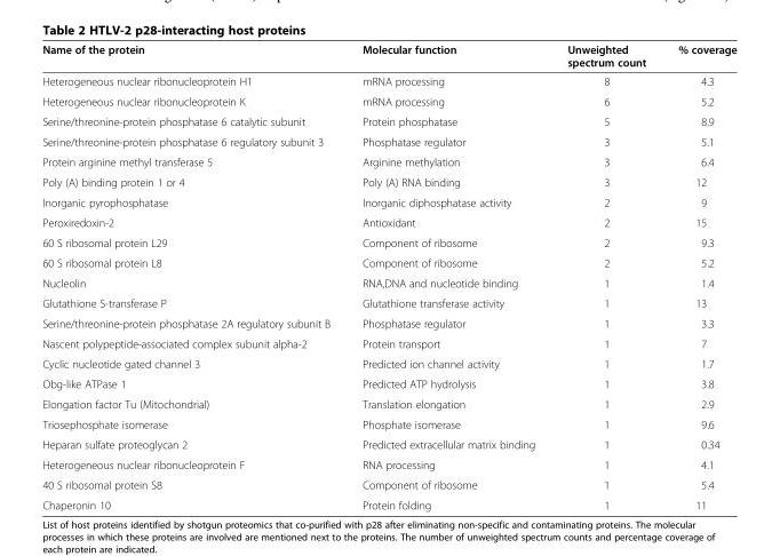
<table><thead><tr><td>Name of the protein</td><td>Molecular function</td><td>Unweighted spectrum count</td><td>% coverage</td></tr></thead><tbody><tr><td>Heterogeneous nuclear ribonucleoprotein H1</td><td>mRNA processing</td><td>8</td><td>4.3</td></tr><tr><td>Heterogeneous nuclear ribonucleoprotein K</td><td>mRNA processing</td><td>6</td><td>5.2</td></tr><tr><td>Serine/threonine-protein phosphatase 6 catalytic subunit</td><td>Protein phosphatase</td><td>5</td><td>8.9</td></tr><tr><td>Serine/threonine-protein phosphatase 6 regulatory subunit 3</td><td>Phosphatase regulator</td><td>3</td><td>5.1</td></tr><tr><td>Protein arginine methyl transferase 5</td><td>Arginine methylation</td><td>3</td><td>6.4</td></tr><tr><td>Poly (A) binding protein 1 or 4</td><td>Poly (A) RNA binding</td><td>3</td><td>12</td></tr><tr><td>Inorganic pyrophosphatase</td><td>Inorganic diphosphatase activity</td><td>2</td><td>9</td></tr><tr><td>Peroxiredoxin-2</td><td>Antioxidant</td><td>2</td><td>15</td></tr><tr><td>60 S ribosomal protein L29</td><td>Component of ribosome</td><td>2</td><td>9.3</td></tr><tr><td>60 S ribosomal protein L8</td><td>Component of ribosome</td><td>2</td><td>5.2</td></tr><tr><td>Nucleolin</td><td>RNA,DNA and nucleotide binding</td><td>1</td><td>1.4</td></tr><tr><td>Glutathione S-transferase P</td><td>Glutathione transferase activity</td><td>1</td><td>13</td></tr><tr><td>Serine/threonine-protein phosphatase 2A regulatory subunit B</td><td>Phosphatase regulator</td><td>1</td><td>3.3</td></tr><tr><td>Nascent polypeptide-associated complex subunit alpha-2</td><td>Protein transport</td><td>1</td><td>7</td></tr><tr><td>Cyclic nucleotide gated channel 3</td><td>Predicted ion channel activity</td><td>1</td><td>1.7</td></tr><tr><td>Obg-like ATPase 1</td><td>Predicted ATP hydrolysis</td><td>1</td><td>3.8</td></tr><tr><td>Elongation factor Tu (Mitochondrial)</td><td>Translation elongation</td><td>1</td><td>2.9</td></tr><tr><td>Triosephosphate isomerase</td><td>Phosphate isomerase</td><td>1</td><td>9.6</td></tr><tr><td>Heparan sulfate proteoglycan 2</td><td>Predicted extracellular matrix binding</td><td>1</td><td>0.34</td></tr><tr><td>Heterogeneous nuclear ribonucleoprotein F</td><td>RNA processing</td><td>1</td><td>4.1</td></tr><tr><td>40 S ribosomal protein S8</td><td>Component of ribosome</td><td>1</td><td>5.4</td></tr><tr><td>Chaperonin 10</td><td>Protein folding</td><td>1</td><td>11</td></tr></tbody></table>